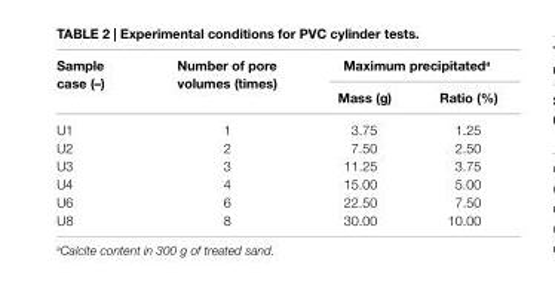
<table><thead><tr><td rowspan="2">sample case (–)</td><td rowspan="2">number of pore volumes (times)</td><td colspan="2">Maximum precipitated<sup>a</sup></td></tr><tr><td>Mass (g)</td><td>ratio (%)</td></tr></thead><tbody><tr><td>U1</td><td>1</td><td>3.75</td><td>1.25</td></tr><tr><td>U2</td><td>2</td><td>7.50</td><td>2.50</td></tr><tr><td>U3</td><td>3</td><td>11.25</td><td>3.75</td></tr><tr><td>U4</td><td>4</td><td>15.00</td><td>5.00</td></tr><tr><td>U6</td><td>6</td><td>22.50</td><td>7.50</td></tr><tr><td>U8</td><td>8</td><td>30.00</td><td>10.00</td></tr></tbody></table>